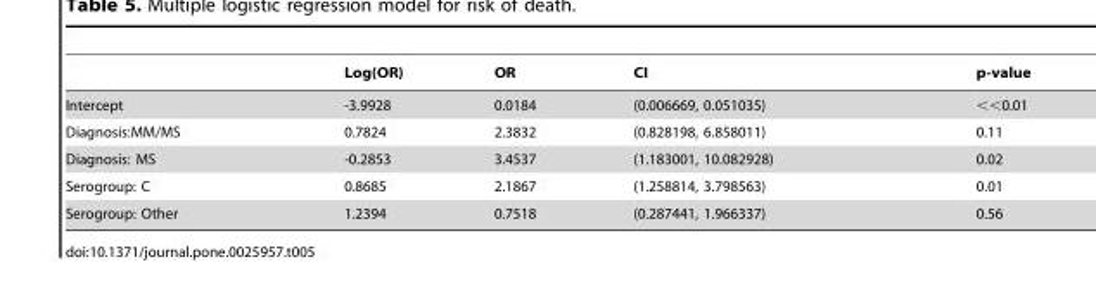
<table><thead><tr><td></td><td>Log(OR)</td><td>OR</td><td>CI</td><td>p-value</td></tr></thead><tbody><tr><td>Intercept</td><td>-3.9928</td><td>0.0184</td><td>(0.006669, 0.051035)</td><td>&lt;&lt;0.01</td></tr><tr><td>Diagnosis:MM/MS</td><td>0.7824</td><td>2.3832</td><td>(0.828198, 6.858011)</td><td>0.11</td></tr><tr><td>Diagnosis: MS</td><td>-0.2853</td><td>3.4537</td><td>(1.183001, 10.082928)</td><td>0.02</td></tr><tr><td>Serogroup: C</td><td>0.8685</td><td>2.1867</td><td>(1.258814, 3.798563)</td><td>0.01</td></tr><tr><td>Serogroup: Other</td><td>1.2394</td><td>0.7518</td><td>(0.287441, 1.966337)</td><td>0.56</td></tr></tbody></table>